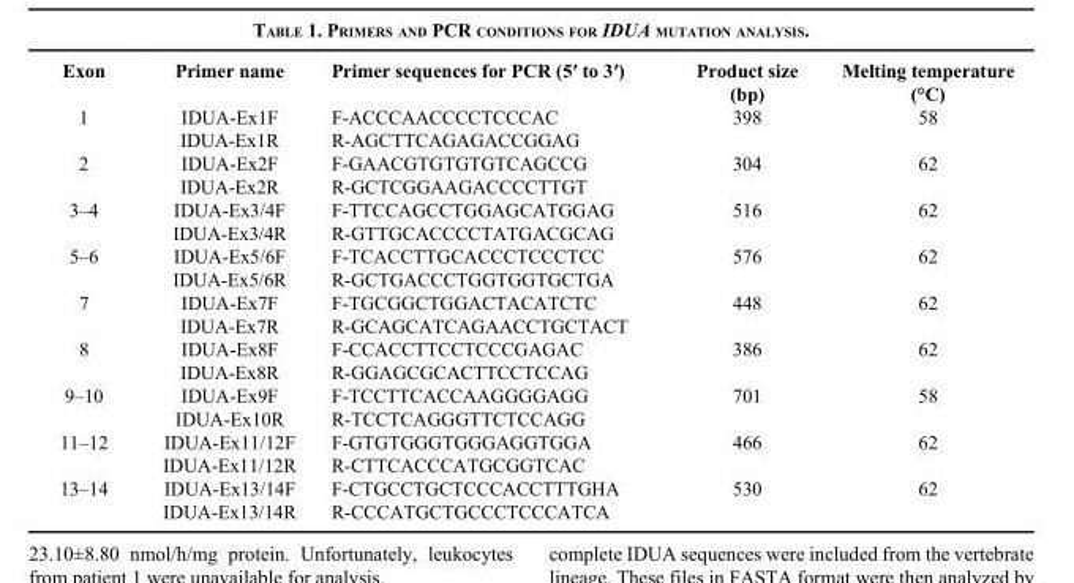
<table><thead><tr><td>Exon</td><td>Primer name</td><td>Primer sequences for PCR (5′ to 3′)</td><td>Product size (bp)</td><td>Melting temperature (°C)</td></tr></thead><tbody><tr><td rowspan="2">1</td><td>IDUA-Ex1F</td><td>F-ACCCAACCCCTCCCAC</td><td>398</td><td>58</td></tr><tr><td>IDUA-Ex1R</td><td>R-AGCTTCAGAGACCGGAG</td><td></td><td></td></tr><tr><td rowspan="2">2</td><td>IDUA-Ex2F</td><td>F-GAACGTGTGTGTCAGCCG</td><td>304</td><td>62</td></tr><tr><td>IDUA-Ex2R</td><td>R-GCTCGGAAGACCCCTTGT</td><td></td><td></td></tr><tr><td rowspan="2">3–4</td><td>IDUA-Ex3/4F</td><td>F-TTCCAGCCTGGAGCATGGAG</td><td>516</td><td>62</td></tr><tr><td>IDUA-Ex3/4R</td><td>R-GTTGCACCCCTATGACGCAG</td><td></td><td></td></tr><tr><td rowspan="2">5–6</td><td>IDUA-Ex5/6F</td><td>F-TCACCTTGCACCCTCCCTCC</td><td>576</td><td>62</td></tr><tr><td>IDUA-Ex5/6R</td><td>R-GCTGACCCTGGTGGTGCTGA</td><td></td><td></td></tr><tr><td rowspan="2">7</td><td>IDUA-Ex7F</td><td>F-TGCGGCTGGACTACATCTC</td><td>448</td><td>62</td></tr><tr><td>IDUA-Ex7R</td><td>R-GCAGCATCAGAACCTGCTACT</td><td></td><td></td></tr><tr><td rowspan="2">8</td><td>IDUA-Ex8F</td><td>F-CCACCTTCCTCCCGAGAC</td><td>386</td><td>62</td></tr><tr><td>IDUA-Ex8R</td><td>R-GGAGCGCACTTCCTCCAG</td><td></td><td></td></tr><tr><td rowspan="2">9–10</td><td>IDUA-Ex9F</td><td>F-TCCTTCACCAAGGGGAGG</td><td>701</td><td>58</td></tr><tr><td>IDUA-Ex10R</td><td>R-TCCTCAGGGTTCTCCAGG</td><td></td><td></td></tr><tr><td rowspan="2">11–12</td><td>IDUA-Ex11/12F</td><td>F-GTGTGGGTGGGAGGTGGA</td><td>466</td><td>62</td></tr><tr><td>IDUA-Ex11/12R</td><td>R-CTTCACCCATGCGGTCAC</td><td></td><td></td></tr><tr><td rowspan="2">13–14</td><td>IDUA-Ex13/14F</td><td>F-CTGCCTGCTCCCACCTTTGHA</td><td>530</td><td>62</td></tr><tr><td>IDUA-Ex13/14R</td><td>R-CCCATGCTGCCCTCCCATCA</td><td></td><td></td></tr></tbody></table>